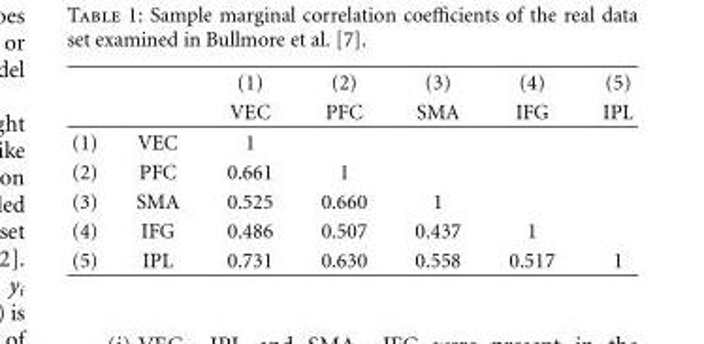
<table><thead><tr><td rowspan="2"></td><td rowspan="2"></td><td rowspan="2">(1) VEC</td><td rowspan="2">(2) PFC</td><td rowspan="2">(3) SMA</td><td rowspan="2">(4) IFG</td><td rowspan="2">(5) IPL</td></tr><tr></tr></thead><tbody><tr><td>(1)</td><td>VEC</td><td>1</td><td></td><td></td><td></td><td></td></tr><tr><td>(2)</td><td>PFC</td><td>0.661</td><td>1</td><td></td><td></td><td></td></tr><tr><td>(3)</td><td>SMA</td><td>0.525</td><td>0.660</td><td>1</td><td></td><td></td></tr><tr><td>(4)</td><td>IFG</td><td>0.486</td><td>0.507</td><td>0.437</td><td>1</td><td></td></tr><tr><td>(5)</td><td>IPL</td><td>0.731</td><td>0.630</td><td>0.558</td><td>0.517</td><td>1</td></tr></tbody></table>